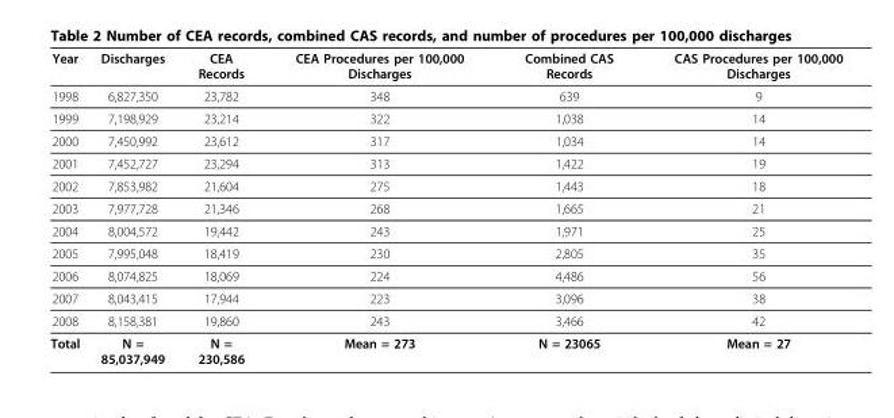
<table><thead><tr><td>Year</td><td>Discharges</td><td>CEA Records</td><td>CEA Procedures per 100,000 Discharges</td><td>Combined CAS Records</td><td>CAS Procedures per 100,000 Discharges</td></tr></thead><tbody><tr><td>1998</td><td>6,827,350</td><td>23,782</td><td>348</td><td>639</td><td>9</td></tr><tr><td>1999</td><td>7,198,929</td><td>23,214</td><td>322</td><td>1,038</td><td>14</td></tr><tr><td>2000</td><td>7,450,992</td><td>23,612</td><td>317</td><td>1,034</td><td>14</td></tr><tr><td>2001</td><td>7,452,727</td><td>23,294</td><td>313</td><td>1,422</td><td>19</td></tr><tr><td>2002</td><td>7,853,982</td><td>21,604</td><td>275</td><td>1,443</td><td>18</td></tr><tr><td>2003</td><td>7,977,728</td><td>21,346</td><td>268</td><td>1,665</td><td>21</td></tr><tr><td>2004</td><td>8,004,572</td><td>19,442</td><td>243</td><td>1,971</td><td>25</td></tr><tr><td>2005</td><td>7,995,048</td><td>18,419</td><td>230</td><td>2,805</td><td>35</td></tr><tr><td>2006</td><td>8,074,825</td><td>18,069</td><td>224</td><td>4,486</td><td>56</td></tr><tr><td>2007</td><td>8,043,415</td><td>17,944</td><td>223</td><td>3,096</td><td>38</td></tr><tr><td>2008</td><td>8,158,381</td><td>19,860</td><td>243</td><td>3,466</td><td>42</td></tr><tr><td>Total</td><td>N = 85,037,949</td><td>N = 230,586</td><td>Mean = 273</td><td>N = 23065</td><td>Mean = 27</td></tr></tbody></table>